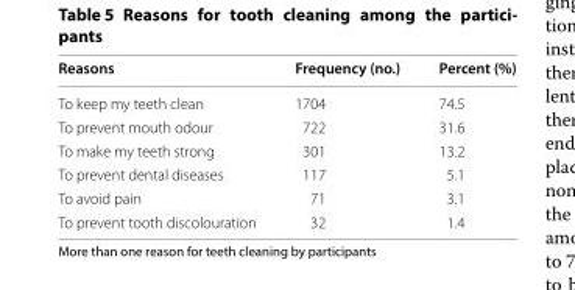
<table><thead><tr><td>Reasons</td><td>Frequency (no.)</td><td>Percent (%)</td></tr></thead><tbody><tr><td>To keep my teeth clean</td><td>1704</td><td>74.5</td></tr><tr><td>To prevent mouth odour</td><td>722</td><td>31.6</td></tr><tr><td>To make my teeth strong</td><td>301</td><td>13.2</td></tr><tr><td>To prevent dental diseases</td><td>117</td><td>5.1</td></tr><tr><td>To avoid pain</td><td>71</td><td>3.1</td></tr><tr><td>To prevent tooth discolouration</td><td>32</td><td>1.4</td></tr></tbody></table>